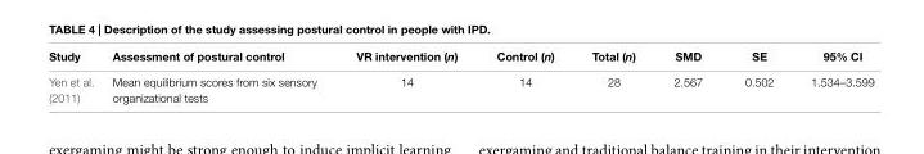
<table><thead><tr><td>Study</td><td>Assessment of postural control</td><td>vR intervention (n)</td><td>Control (n)</td><td>Total (n)</td><td>SMD</td><td>Se</td><td>95% Ci</td></tr></thead><tbody><tr><td>Yen et al. (2011)</td><td>Mean equilibrium scores from six sensory organizational tests</td><td>14</td><td>14</td><td>28</td><td>2.567</td><td>0.502</td><td>1.534–3.599</td></tr></tbody></table>